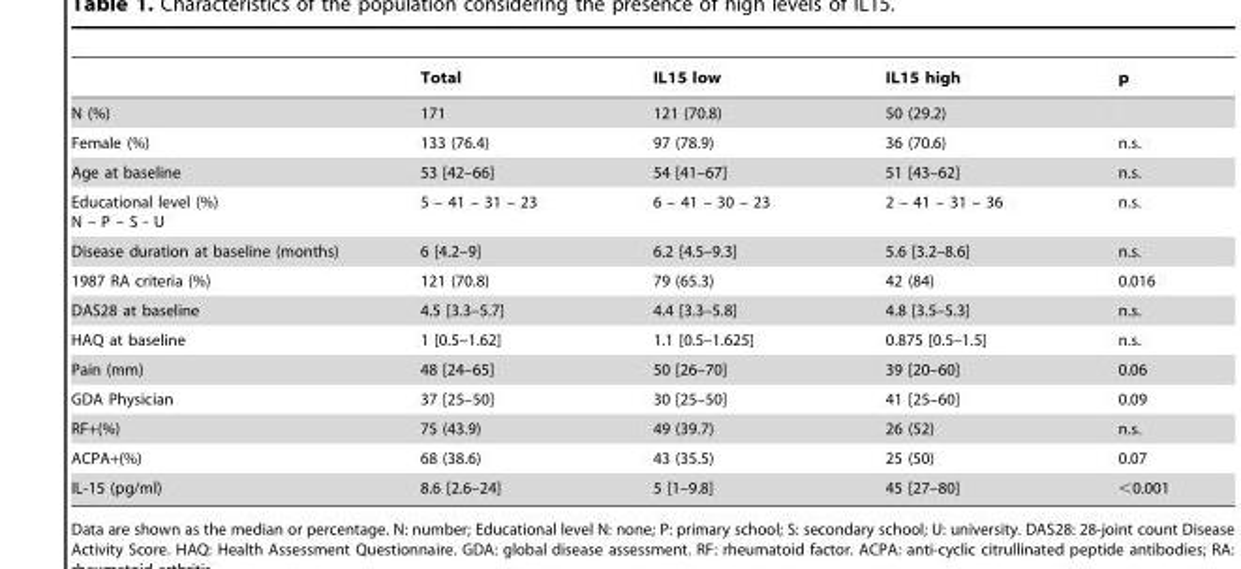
<table><thead><tr><td></td><td>Total</td><td>IL15 low</td><td>IL15 high</td><td>p</td></tr></thead><tbody><tr><td>N (%)</td><td>171</td><td>121 (70.8)</td><td>50 (29.2)</td><td></td></tr><tr><td>Female (%)</td><td>133 (76.4)</td><td>97 (78.9)</td><td>36 (70.6)</td><td>n.s.</td></tr><tr><td>Age at baseline</td><td>53 [42–66]</td><td>54 [41–67]</td><td>51 [43–62]</td><td>n.s.</td></tr><tr><td>Educational level (%) N – P – S - U</td><td>5 – 41 – 31 – 23</td><td>6 – 41 – 30 – 23</td><td>2 – 41 – 31 – 36</td><td>n.s.</td></tr><tr><td>Disease duration at baseline (months)</td><td>6 [4.2–9]</td><td>6.2 [4.5–9.3]</td><td>5.6 [3.2–8.6]</td><td>n.s.</td></tr><tr><td>1987 RA criteria (%)</td><td>121 (70.8)</td><td>79 (65.3)</td><td>42 (84)</td><td>0.016</td></tr><tr><td>DAS28 at baseline</td><td>4.5 [3.3–5.7]</td><td>4.4 [3.3–5.8]</td><td>4.8 [3.5–5.3]</td><td>n.s.</td></tr><tr><td>HAQ at baseline</td><td>1 [0.5–1.62]</td><td>1.1 [0.5–1.625]</td><td>0.875 [0.5–1.5]</td><td>n.s.</td></tr><tr><td>Pain (mm)</td><td>48 [24–65]</td><td>50 [26–70]</td><td>39 [20–60]</td><td>0.06</td></tr><tr><td>GDA Physician</td><td>37 [25–50]</td><td>30 [25–50]</td><td>41 [25–60]</td><td>0.09</td></tr><tr><td>RF+(%)</td><td>75 (43.9)</td><td>49 (39.7)</td><td>26 (52)</td><td>n.s.</td></tr><tr><td>ACPA+(%)</td><td>68 (38.6)</td><td>43 (35.5)</td><td>25 (50)</td><td>0.07</td></tr><tr><td>IL-15 (pg/ml)</td><td>8.6 [2.6–24]</td><td>5 [1–9.8]</td><td>45 [27–80]</td><td>&lt;0.001</td></tr></tbody></table>